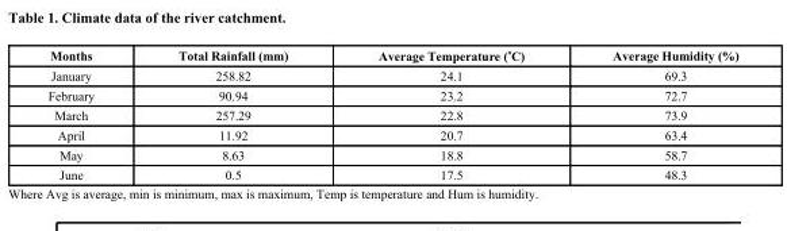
<table><thead><tr><td>Months</td><td>Total Rainfall (mm)</td><td>Average Temperature ( <sup>o</sup>C)</td><td>Average Humidity (%)</td></tr></thead><tbody><tr><td>January</td><td>258.82</td><td>24.1</td><td>69.3</td></tr><tr><td>February</td><td>90.94</td><td>23.2</td><td>72.7</td></tr><tr><td>March</td><td>257.29</td><td>22.8</td><td>73.9</td></tr><tr><td>April</td><td>11.92</td><td>20.7</td><td>63.4</td></tr><tr><td>May</td><td>8.63</td><td>18.8</td><td>58.7</td></tr><tr><td>June</td><td>0.5</td><td>17.5</td><td>48.3</td></tr></tbody></table>